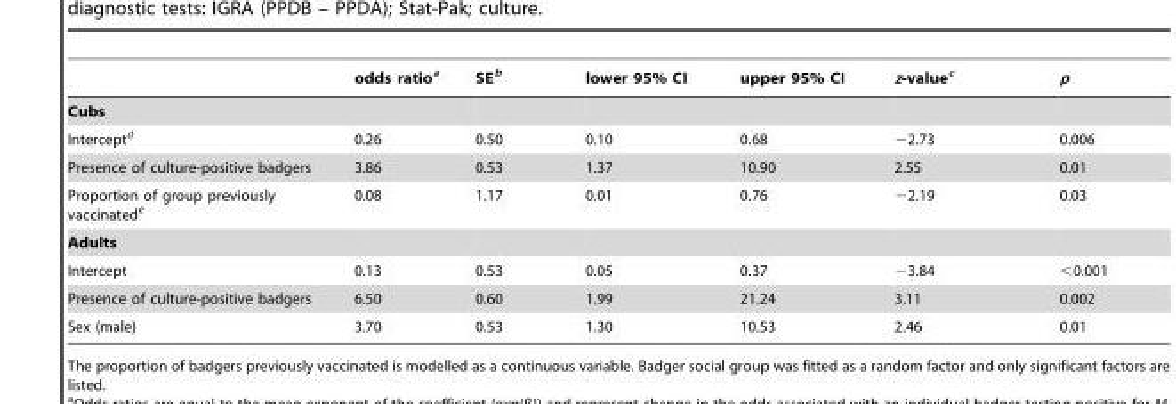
<table><thead><tr><td></td><td>odds ratio<sup>a</sup></td><td>SE<sup>b</sup></td><td>lower 95% CI</td><td>upper 95% CI</td><td>z-value<sup>c</sup></td><td>p</td></tr></thead><tbody><tr><td colspan="7">Cubs</td></tr><tr><td>Intercept<sup>d</sup></td><td>0.26</td><td>0.50</td><td>0.10</td><td>0.68</td><td>−2.73</td><td>0.006</td></tr><tr><td>Presence of culture-positive badgers</td><td>3.86</td><td>0.53</td><td>1.37</td><td>10.90</td><td>2.55</td><td>0.01</td></tr><tr><td>Proportion of group previously vaccinated<sup>e</sup></td><td>0.08</td><td>1.17</td><td>0.01</td><td>0.76</td><td>−2.19</td><td>0.03</td></tr><tr><td colspan="7">Adults</td></tr><tr><td>Intercept</td><td>0.13</td><td>0.53</td><td>0.05</td><td>0.37</td><td>−3.84</td><td>&lt;0.001</td></tr><tr><td>Presence of culture-positive badgers</td><td>6.50</td><td>0.60</td><td>1.99</td><td>21.24</td><td>3.11</td><td>0.002</td></tr><tr><td>Sex (male)</td><td>3.70</td><td>0.53</td><td>1.30</td><td>10.53</td><td>2.46</td><td>0.01</td></tr></tbody></table>